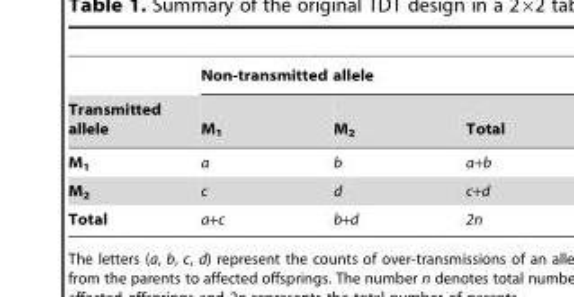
<table><thead><tr><td rowspan="2">Transmitted allele</td><td colspan="3">Non-transmitted allele</td></tr><tr><td>M1</td><td>M<sub>2</sub></td><td>Total</td></tr></thead><tbody><tr><td>M<sub>1</sub></td><td>a</td><td>b</td><td>a+b</td></tr><tr><td>M<sub>2</sub></td><td>c</td><td>d</td><td>c+d</td></tr><tr><td>Total</td><td>a+c</td><td>b+d</td><td>2n</td></tr></tbody></table>